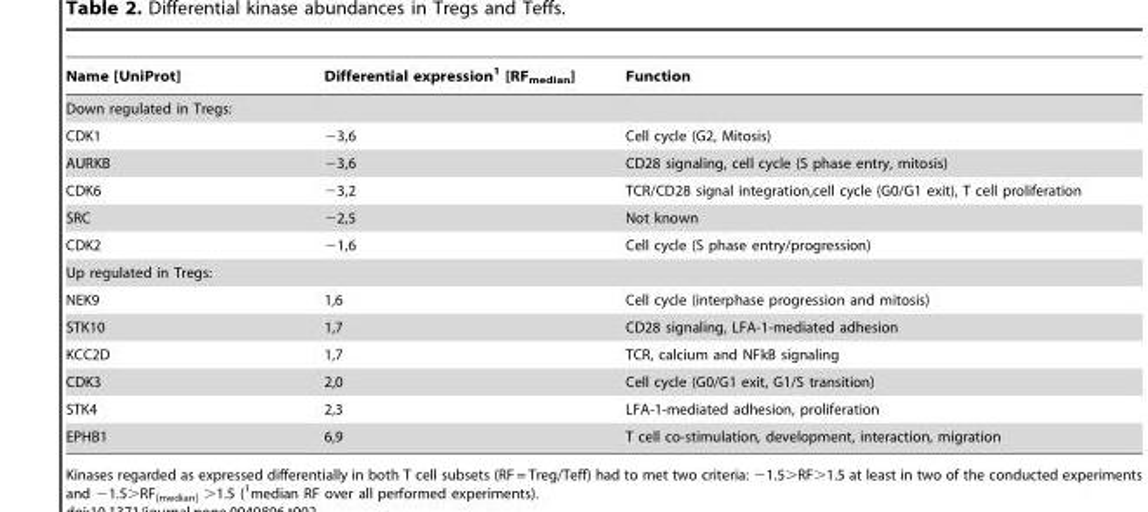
<table><thead><tr><td>Name [UniProt]</td><td>Differential expression<sup>1</sup> [RF<sub>median</sub>]</td><td>Function</td></tr></thead><tbody><tr><td colspan="3">Down regulated in Tregs:</td></tr><tr><td>CDK1</td><td>−3,6</td><td>Cell cycle (G2, Mitosis)</td></tr><tr><td>AURKB</td><td>−3,6</td><td>CD28 signaling, cell cycle (S phase entry, mitosis)</td></tr><tr><td>CDK6</td><td>−3,2</td><td>TCR/CD28 signal integration,cell cycle (G0/G1 exit), T cell proliferation</td></tr><tr><td>SRC</td><td>−2,5</td><td>Not known</td></tr><tr><td>CDK2</td><td>−1,6</td><td>Cell cycle (S phase entry/progression)</td></tr><tr><td colspan="3">Up regulated in Tregs:</td></tr><tr><td>NEK9</td><td>1,6</td><td>Cell cycle (interphase progression and mitosis)</td></tr><tr><td>STK10</td><td>1,7</td><td>CD28 signaling, LFA-1-mediated adhesion</td></tr><tr><td>KCC2D</td><td>1,7</td><td>TCR, calcium and NFkB signaling</td></tr><tr><td>CDK3</td><td>2,0</td><td>Cell cycle (G0/G1 exit, G1/S transition)</td></tr><tr><td>STK4</td><td>2,3</td><td>LFA-1-mediated adhesion, proliferation</td></tr><tr><td>EPHB1</td><td>6,9</td><td>T cell co-stimulation, development, interaction, migration</td></tr></tbody></table>